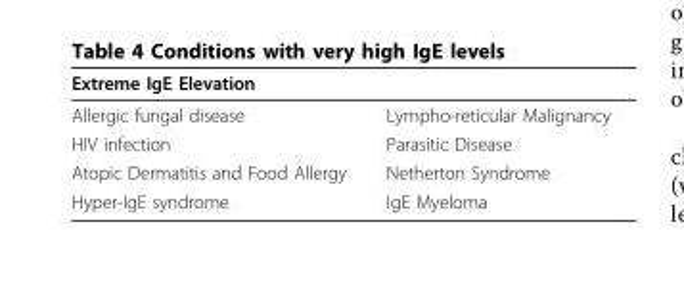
<table><thead><tr><td>Extreme IgE Elevation</td><td></td></tr></thead><tbody><tr><td>Allergic fungal disease</td><td>Lympho-reticular Malignancy</td></tr><tr><td>HIV infection</td><td>Parasitic Disease</td></tr><tr><td>Atopic Dermatitis and Food Allergy</td><td>Netherton Syndrome</td></tr><tr><td>Hyper-IgE syndrome</td><td>IgE Myeloma</td></tr></tbody></table>